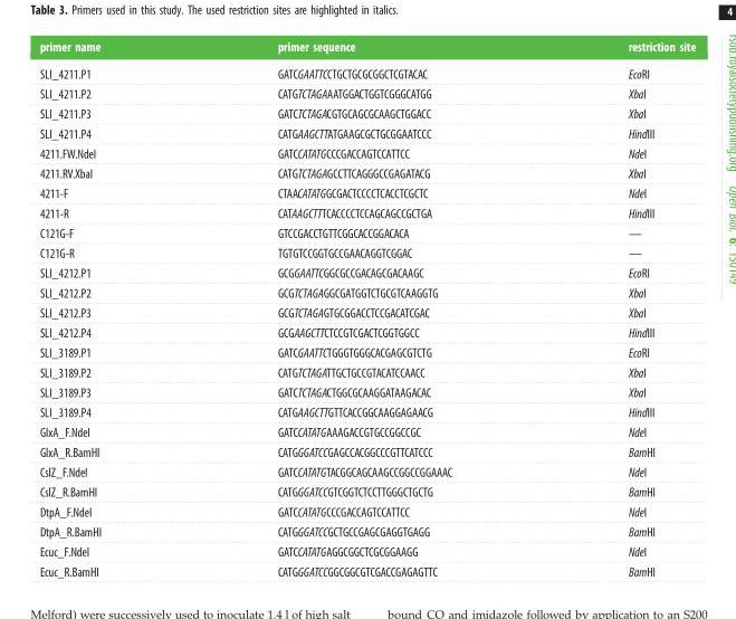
<table><thead><tr><td>primer name</td><td>primer sequence</td><td>restriction site</td></tr></thead><tbody><tr><td>SLI_4211.P1</td><td>GATCGAATTCCTGCTGCGCGGCTCGTACAC</td><td>EcoRI</td></tr><tr><td>SLI_4211.P2</td><td>CATGTCTAGAAATGGACTGGTCGGGCATGG</td><td>XbaI</td></tr><tr><td>SLI_4211.P3</td><td>GATCTCTAGACGTGCAGCGCAAGCTGGACC</td><td>XbaI</td></tr><tr><td>SLI_4211.P4</td><td>CATGAAGCTTATGAAGCGCTGCGGAATCCC</td><td>HindIII</td></tr><tr><td>4211.FW.NdeI</td><td>GATCCATATGCCCGACCAGTCCATTCC</td><td>NdeI</td></tr><tr><td>4211.RV.XbaI</td><td>CATGTCTAGAGCCTTCAGGGCCGAGATACG</td><td>XbaI</td></tr><tr><td>4211-F</td><td>CTAACATATGGCGACTCCCCTCACCTCGCTC</td><td>NdeI</td></tr><tr><td>4211-R</td><td>CATAAGCTTTCACCCCTCCAGCAGCCGCTGA</td><td>HindIII</td></tr><tr><td>C121G-F</td><td>GTCCGACCTGTTCGGCACCGGACACA</td><td>—</td></tr><tr><td>C121G-R</td><td>TGTGTCCGGTGCCGAACAGGTCGGAC</td><td>—</td></tr><tr><td>SLI_4212.P1</td><td>GCGGAATTCGGCGCCGACAGCGACAAGC</td><td>EcoRI</td></tr><tr><td>SLI_4212.P2</td><td>GCGTCTAGAGGCGATGGTCTGCGTCAAGGTG</td><td>XbaI</td></tr><tr><td>SLI_4212.P3</td><td>GCGTCTAGAGTGCGGACCTCCGACATCGAC</td><td>XbaI</td></tr><tr><td>SLI_4212.P4</td><td>GCGAAGCTTCTCCGTCGACTCGGTGGCC</td><td>HindIII</td></tr><tr><td>SLI_3189.P1</td><td>GATCGAATTCTGGGTGGGCACGAGCGTCTG</td><td>EcoRI</td></tr><tr><td>SLI_3189.P2</td><td>CATGTCTAGATTGCTGCCGTACATCCAACC</td><td>XbaI</td></tr><tr><td>SLI_3189.P3</td><td>GATCTCTAGACTGGCGCAAGGATAAGACAC</td><td>XbaI</td></tr><tr><td>SLI_3189.P4</td><td>CATGAAGCTTGTTCACCGGCAAGGAGAACG</td><td>HindIII</td></tr><tr><td>GlxA_F.NdeI</td><td>GATCCATATGAAAGACCGTGCCGGCCGC</td><td>NdeI</td></tr><tr><td>GlxA_R.BamHI</td><td>CATGGGATCCGAGCCACGGCCCGTTCATCCC</td><td>BamHI</td></tr><tr><td>CslZ_F.NdeI</td><td>GATCCATATGTACGGCAGCAAGCCGGCCGGAAAC</td><td>NdeI</td></tr><tr><td>CslZ_R.BamHI</td><td>CATGGGATCCGTCGGTCTCCTTGGGCTGCTG</td><td>BamHI</td></tr><tr><td>DtpA_F.NdeI</td><td>GATCCATATGCCCGACCAGTCCATTCC</td><td>NdeI</td></tr><tr><td>DtpA_R.BamHI</td><td>CATGGGATCCGCTGCCGAGCGAGGTGAGG</td><td>BamHI</td></tr><tr><td>Ecuc_F.NdeI</td><td>GATCCATATGAGGCGGCTCGCGGAAGG</td><td>NdeI</td></tr><tr><td>Ecuc_R.BamHI</td><td>CATGGGATCCGGCGGCGTCGACCGAGAGTTC</td><td>BamHI</td></tr></tbody></table>